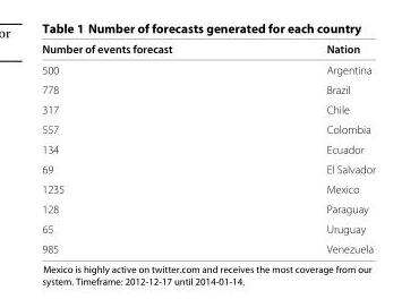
<table><thead><tr><td>Number of events forecast</td><td>Nation</td></tr></thead><tbody><tr><td>500</td><td>Argentina</td></tr><tr><td>778</td><td>Brazil</td></tr><tr><td>317</td><td>Chile</td></tr><tr><td>557</td><td>Colombia</td></tr><tr><td>134</td><td>Ecuador</td></tr><tr><td>69</td><td>El Salvador</td></tr><tr><td>1235</td><td>Mexico</td></tr><tr><td>128</td><td>Paraguay</td></tr><tr><td>65</td><td>Uruguay</td></tr><tr><td>985</td><td>Venezuela</td></tr></tbody></table>